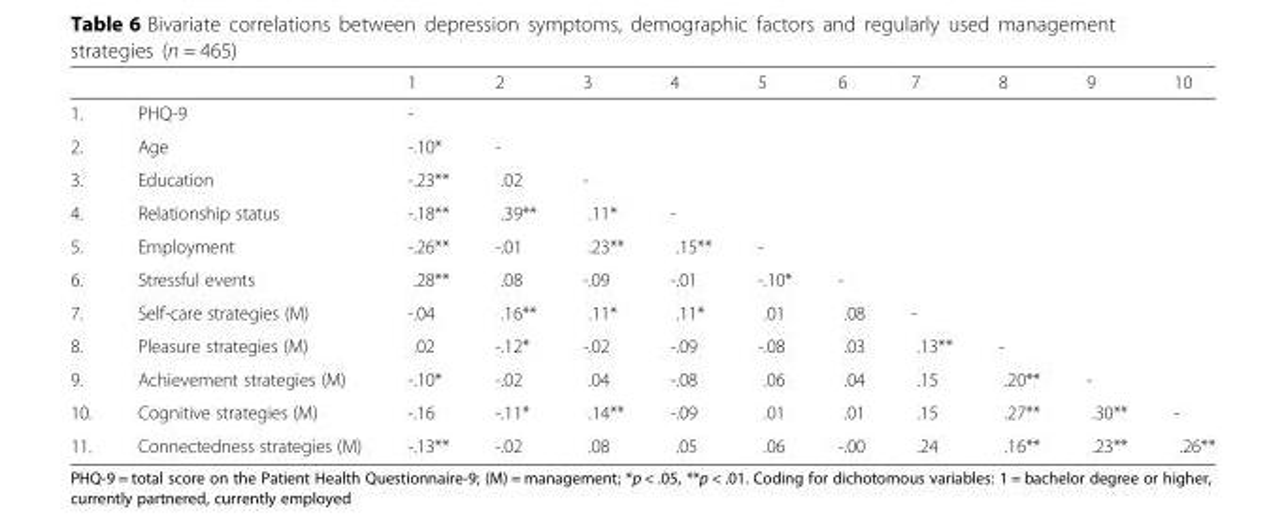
<table><thead><tr><td></td><td></td><td>1</td><td>2</td><td>3</td><td>4</td><td>5</td><td>6</td><td>7</td><td>8</td><td>9</td><td>10</td></tr></thead><tbody><tr><td>1.</td><td>PHQ-9</td><td>-</td><td></td><td></td><td></td><td></td><td></td><td></td><td></td><td></td><td></td></tr><tr><td>2.</td><td>Age</td><td>-.10*</td><td>-</td><td></td><td></td><td></td><td></td><td></td><td></td><td></td><td></td></tr><tr><td>3.</td><td>Education</td><td>-.23**</td><td>.02</td><td>-</td><td></td><td></td><td></td><td></td><td></td><td></td><td></td></tr><tr><td>4.</td><td>Relationship status</td><td>-.18**</td><td>.39**</td><td>.11*</td><td>-</td><td></td><td></td><td></td><td></td><td></td><td></td></tr><tr><td>5.</td><td>Employment</td><td>-.26**</td><td>-.01</td><td>.23**</td><td>.15**</td><td>-</td><td></td><td></td><td></td><td></td><td></td></tr><tr><td>6.</td><td>Stressful events</td><td>.28**</td><td>.08</td><td>-.09</td><td>-.01</td><td>-.10*</td><td>-</td><td></td><td></td><td></td><td></td></tr><tr><td>7.</td><td>Self-care strategies (M)</td><td>-.04</td><td>.16**</td><td>.11*</td><td>.11*</td><td>.01</td><td>.08</td><td>-</td><td></td><td></td><td></td></tr><tr><td>8.</td><td>Pleasure strategies (M)</td><td>.02</td><td>-.12*</td><td>-.02</td><td>-.09</td><td>-.08</td><td>.03</td><td>.13**</td><td>-</td><td></td><td></td></tr><tr><td>9.</td><td>Achievement strategies (M)</td><td>-.10*</td><td>-.02</td><td>.04</td><td>-.08</td><td>.06</td><td>.04</td><td>.15</td><td>.20**</td><td>-</td><td></td></tr><tr><td>10.</td><td>Cognitive strategies (M)</td><td>-.16</td><td>-.11*</td><td>.14**</td><td>-.09</td><td>.01</td><td>.01</td><td>.15</td><td>.27**</td><td>.30**</td><td>-</td></tr><tr><td>11.</td><td>Connectedness strategies (M)</td><td>-.13**</td><td>-.02</td><td>.08</td><td>.05</td><td>.06</td><td>-.00</td><td>.24</td><td>.16**</td><td>.23**</td><td>.26**</td></tr></tbody></table>